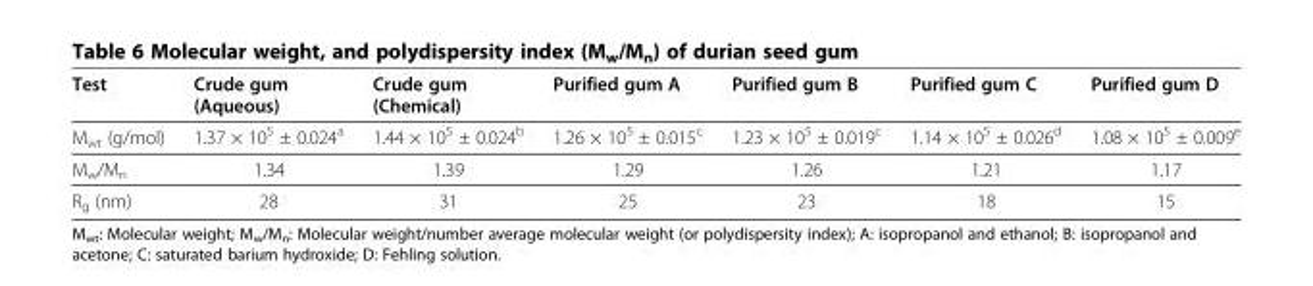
<table><thead><tr><td>Test</td><td>Crude gum (Aqueous)</td><td>Crude gum (Chemical)</td><td>Purified gum A</td><td>Purified gum B</td><td>Purified gum C</td><td>Purified gum D</td></tr></thead><tbody><tr><td>M<sub>wt</sub> (g/mol)</td><td>1.37 × 10<sup>5</sup> ± 0.024<sup>a</sup></td><td>1.44 × 10<sup>5</sup> ± 0.024<sup>b</sup></td><td>1.26 × 10<sup>5</sup> ± 0.015<sup>c</sup></td><td>1.23 × 10<sup>5</sup> ± 0.019<sup>c</sup></td><td>1.14 × 10<sup>5</sup> ± 0.026<sup>d</sup></td><td>1.08 × 10<sup>5</sup> ± 0.009<sup>e</sup></td></tr><tr><td>M<sub>w</sub>/M<sub>n</sub></td><td>1.34</td><td>1.39</td><td>1.29</td><td>1.26</td><td>1.21</td><td>1.17</td></tr><tr><td>R<sub>g</sub> (nm)</td><td>28</td><td>31</td><td>25</td><td>23</td><td>18</td><td>15</td></tr></tbody></table>